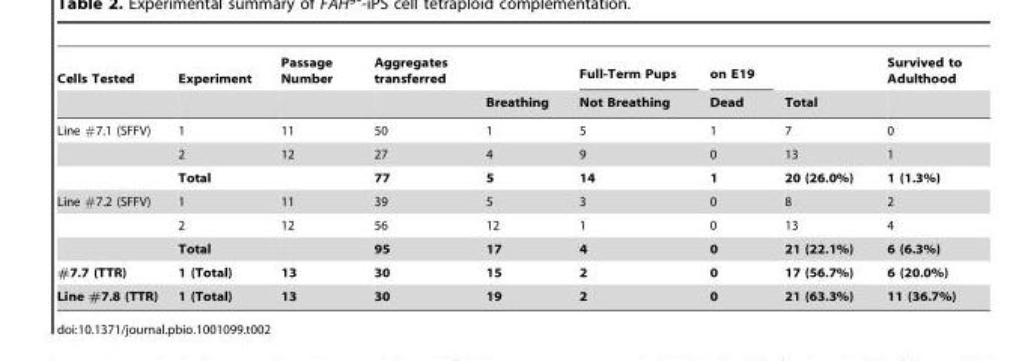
<table><thead><tr><td rowspan="2">Cells Tested</td><td rowspan="2">Experiment</td><td rowspan="2">Passage Number</td><td rowspan="2">Aggregates transferred</td><td rowspan="2">Breathing</td><td rowspan="2">Full-Term Pups Not Breathing</td><td rowspan="2">on E19 Dead</td><td rowspan="2">Total</td><td rowspan="2">Survived to Adulthood</td></tr><tr></tr></thead><tbody><tr><td rowspan="3">Line #7.1 (SFFV)</td><td>1</td><td>11</td><td>50</td><td>1</td><td>5</td><td>1</td><td>7</td><td>0</td></tr><tr><td>2</td><td>12</td><td>27</td><td>4</td><td>9</td><td>0</td><td>13</td><td>1</td></tr><tr><td>Total</td><td></td><td>77</td><td>5</td><td>14</td><td>1</td><td>20 (26.0%)</td><td>1 (1.3%)</td></tr><tr><td rowspan="3">Line #7.2 (SFFV)</td><td>1</td><td>11</td><td>39</td><td>5</td><td>3</td><td>0</td><td>8</td><td>2</td></tr><tr><td>2</td><td>12</td><td>56</td><td>12</td><td>1</td><td>0</td><td>13</td><td>4</td></tr><tr><td>Total</td><td></td><td>95</td><td>17</td><td>4</td><td>0</td><td>21 (22.1%)</td><td>6 (6.3%)</td></tr><tr><td>#7.7 (TTR)</td><td>1 (Total)</td><td>13</td><td>30</td><td>15</td><td>2</td><td>0</td><td>17 (56.7%)</td><td>6 (20.0%)</td></tr><tr><td>Line #7.8 (TTR)</td><td>1 (Total)</td><td>13</td><td>30</td><td>19</td><td>2</td><td>0</td><td>21 (63.3%)</td><td>11 (36.7%)</td></tr></tbody></table>